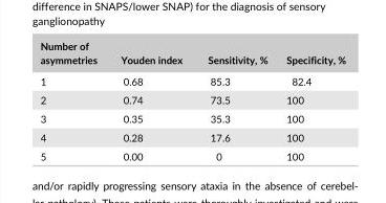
<table><thead><tr><td>Number of asymmetries</td><td>Youden index</td><td>Sensitivity, %</td><td>Specificity, %</td></tr></thead><tbody><tr><td>1</td><td>0.68</td><td>85.3</td><td>82.4</td></tr><tr><td>2</td><td>0.74</td><td>73.5</td><td>100</td></tr><tr><td>3</td><td>0.35</td><td>35.3</td><td>100</td></tr><tr><td>4</td><td>0.28</td><td>17.6</td><td>100</td></tr><tr><td>5</td><td>0.00</td><td>0</td><td>100</td></tr></tbody></table>